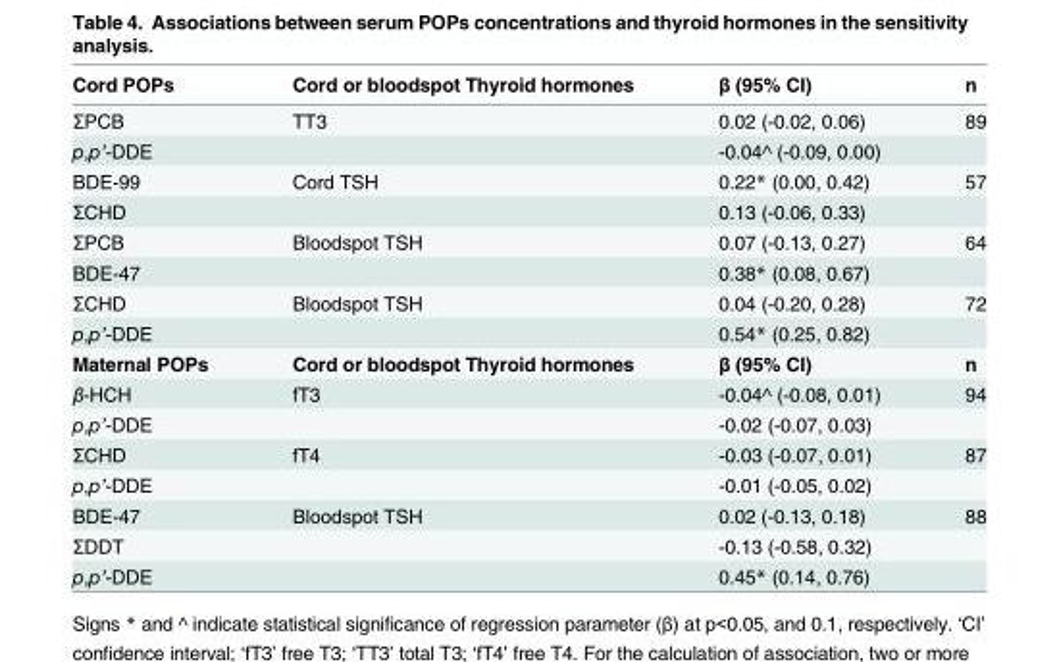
<table><thead><tr><td>Cord POPs</td><td>Cord or bloodspot Thyroid hormones</td><td>β (95% CI)</td><td>n</td></tr></thead><tbody><tr><td>ΣPCB</td><td>TT3</td><td>0.02 (-0.02, 0.06)</td><td>89</td></tr><tr><td>p,p’-DDE</td><td></td><td>-0.04^ (-0.09, 0.00)</td><td></td></tr><tr><td>BDE-99</td><td>Cord TSH</td><td>0.22* (0.00, 0.42)</td><td>57</td></tr><tr><td>ΣCHD</td><td></td><td>0.13 (-0.06, 0.33)</td><td></td></tr><tr><td>ΣPCB</td><td>Bloodspot TSH</td><td>0.07 (-0.13, 0.27)</td><td>64</td></tr><tr><td>BDE-47</td><td></td><td>0.38* (0.08, 0.67)</td><td></td></tr><tr><td>ΣCHD</td><td>Bloodspot TSH</td><td>0.04 (-0.20, 0.28)</td><td>72</td></tr><tr><td>p,p’-DDE</td><td></td><td>0.54* (0.25, 0.82)</td><td></td></tr><tr><td>Maternal POPs</td><td>Cord or bloodspot Thyroid hormones</td><td>β (95% CI)</td><td>n</td></tr><tr><td>β-HCH</td><td>fT3</td><td>-0.04^ (-0.08, 0.01)</td><td>94</td></tr><tr><td>p,p’-DDE</td><td></td><td>-0.02 (-0.07, 0.03)</td><td></td></tr><tr><td>ΣCHD</td><td>fT4</td><td>-0.03 (-0.07, 0.01)</td><td>87</td></tr><tr><td>p,p’-DDE</td><td></td><td>-0.01 (-0.05, 0.02)</td><td></td></tr><tr><td>BDE-47</td><td>Bloodspot TSH</td><td>0.02 (-0.13, 0.18)</td><td>88</td></tr><tr><td>ΣDDT</td><td></td><td>-0.13 (-0.58, 0.32)</td><td></td></tr><tr><td>p,p’-DDE</td><td></td><td>0.45* (0.14, 0.76)</td><td></td></tr></tbody></table>